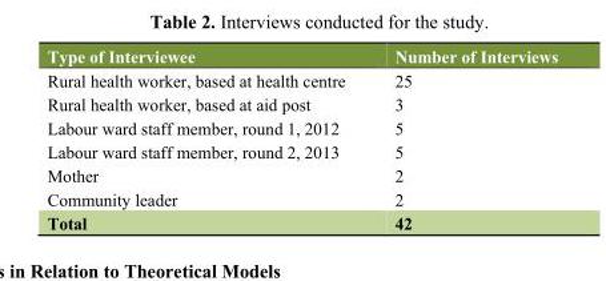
<table><thead><tr><td>Type of Interviewee</td><td>Number of Interviews</td></tr></thead><tbody><tr><td>Rural health worker, based at health centre</td><td>25</td></tr><tr><td>Rural health worker, based at aid post</td><td>3</td></tr><tr><td>Labour ward staff member, round 1, 2012</td><td>5</td></tr><tr><td>Labour ward staff member, round 2, 2013</td><td>5</td></tr><tr><td>Mother</td><td>2</td></tr><tr><td>Community leader</td><td>2</td></tr><tr><td>Total</td><td>42</td></tr></tbody></table>